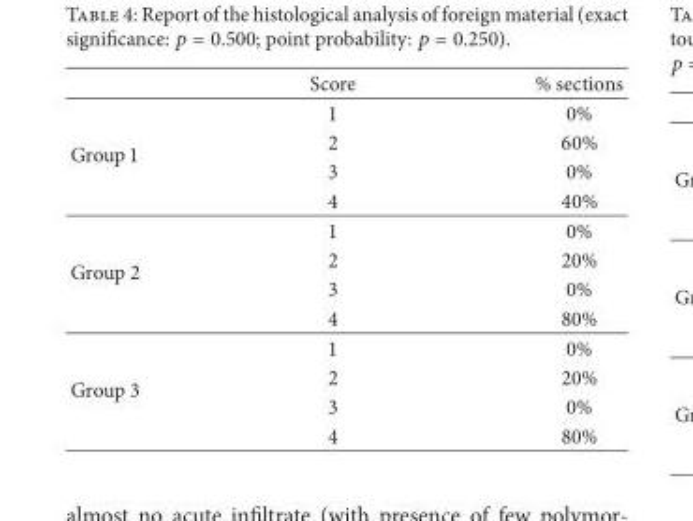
<table><thead><tr><td></td><td>Score</td><td>% sections</td></tr></thead><tbody><tr><td rowspan="4">Group 1</td><td>1</td><td>0%</td></tr><tr><td>2</td><td>60%</td></tr><tr><td>3</td><td>0%</td></tr><tr><td>4</td><td>40%</td></tr><tr><td rowspan="4">Group 2</td><td>1</td><td>0%</td></tr><tr><td>2</td><td>20%</td></tr><tr><td>3</td><td>0%</td></tr><tr><td>4</td><td>80%</td></tr><tr><td rowspan="4">Group 3</td><td>1</td><td>0%</td></tr><tr><td>2</td><td>20%</td></tr><tr><td>3</td><td>0%</td></tr><tr><td>4</td><td>80%</td></tr></tbody></table>